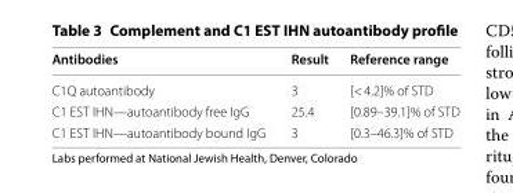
<table><thead><tr><td>Antibodies</td><td>Result</td><td>Reference range</td></tr></thead><tbody><tr><td>C1Q autoantibody</td><td>3</td><td>[&lt; 4.2]% of STD</td></tr><tr><td>C1 EST IHN—autoantibody free IgG</td><td>25.4</td><td>[0.89–39.1]% of STD</td></tr><tr><td>C1 EST IHN—autoantibody bound IgG</td><td>3</td><td>[0.3–46.3]% of STD</td></tr></tbody></table>